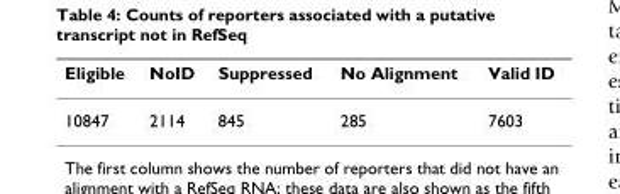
<table><thead><tr><td>Eligible</td><td>NoID</td><td>Suppressed</td><td>No Alignment</td><td>Valid ID</td></tr></thead><tbody><tr><td>10847</td><td>2114</td><td>845</td><td>285</td><td>7603</td></tr></tbody></table>